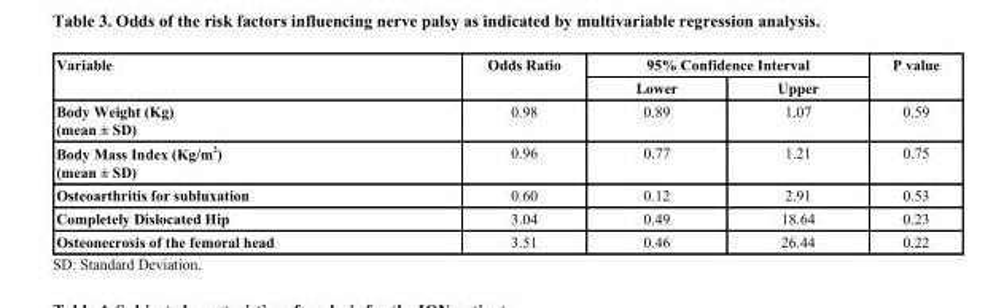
<table><thead><tr><td rowspan="2">Variable</td><td rowspan="2">Odds Ratio</td><td colspan="2">95% Confidence Interval</td><td rowspan="2">P value</td></tr><tr><td>Lower</td><td>Upper</td></tr></thead><tbody><tr><td>Body Weight (Kg) (mean ± SD)</td><td>0.98</td><td>0.89</td><td>1.07</td><td>0.59</td></tr><tr><td>Body Mass Index (Kg/m <sup>2</sup>) (mean ± SD)</td><td>0.96</td><td>0.77</td><td>1.21</td><td>0.75</td></tr><tr><td>Osteoarthritis for subluxation</td><td>0.60</td><td>0.12</td><td>2.91</td><td>0.53</td></tr><tr><td>Completely Dislocated Hip</td><td>3.04</td><td>0.49</td><td>18.64</td><td>0.23</td></tr><tr><td>Osteonecrosis of the femoral head</td><td>3.51</td><td>0.46</td><td>26.44</td><td>0.22</td></tr></tbody></table>